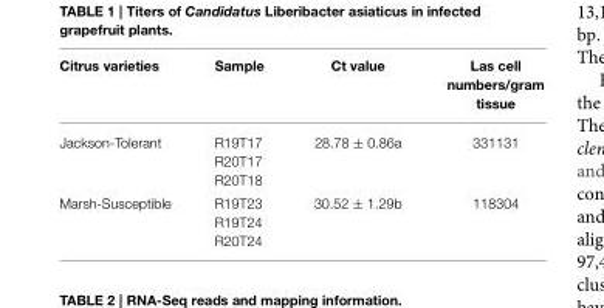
<table><thead><tr><td>Citrus varieties</td><td>Sample</td><td>Ct value</td><td>Las cell numbers/gram tissue</td></tr></thead><tbody><tr><td>Jackson-Tolerant</td><td>R19T17 R20T17 R20T18</td><td>28.78 ± 0.86a</td><td>331131</td></tr><tr><td>Marsh-Susceptible</td><td>R19T23 R19T24 R20T24</td><td>30.52 ± 1.29b</td><td>118304</td></tr></tbody></table>